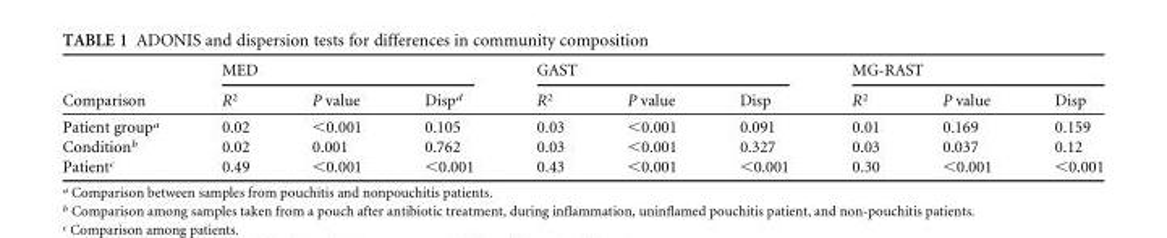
<table><thead><tr><td rowspan="2">Comparison</td><td colspan="3">MED</td><td colspan="3">GAST</td><td colspan="3">MG-RAST</td></tr><tr><td>R<sup>2</sup></td><td>P value</td><td>Disp<sup>d</sup></td><td>R<sup>2</sup></td><td>P value</td><td>Disp</td><td>R<sup>2</sup></td><td>P value</td><td>Disp</td></tr></thead><tbody><tr><td>Patient group<sup>a</sup></td><td>0.02</td><td>&lt;0.001</td><td>0.105</td><td>0.03</td><td>&lt;0.001</td><td>0.091</td><td>0.01</td><td>0.169</td><td>0.159</td></tr><tr><td>Condition<sup>b</sup></td><td>0.02</td><td>0.001</td><td>0.762</td><td>0.03</td><td>&lt;0.001</td><td>0.327</td><td>0.03</td><td>0.037</td><td>0.12</td></tr><tr><td>Patient<sup>c</sup></td><td>0.49</td><td>&lt;0.001</td><td>&lt;0.001</td><td>0.43</td><td>&lt;0.001</td><td>&lt;0.001</td><td>0.30</td><td>&lt;0.001</td><td>&lt;0.001</td></tr></tbody></table>